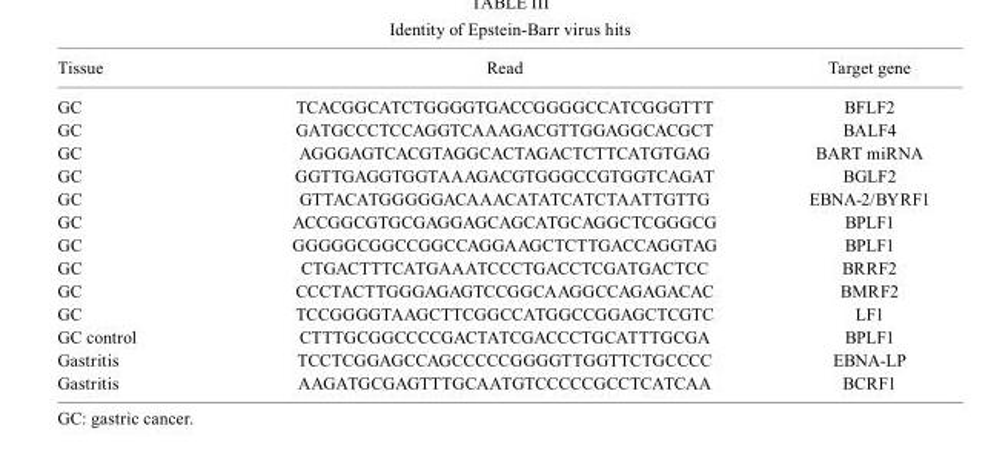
<table><thead><tr><td>Tissue</td><td>Read</td><td>Target gene</td></tr></thead><tbody><tr><td>GC</td><td>TCACGGCATCTGGGGTGACCGGGGCCATCGGGTTT</td><td>BFLF2</td></tr><tr><td>GC</td><td>GATGCCCTCCAGGTCAAAGACGTTGGAGGCACGCT</td><td>BALF4</td></tr><tr><td>GC</td><td>AGGGAGTCACGTAGGCACTAGACTCTTCATGTGAG</td><td>BART miRNA</td></tr><tr><td>GC</td><td>GGTTGAGGTGGTAAAGACGTGGGCCGTGGTCAGAT</td><td>BGLF2</td></tr><tr><td>GC</td><td>GTTACATGGGGGACAAACATATCATCTAATTGTTG</td><td>EBNA-2/BYRF1</td></tr><tr><td>GC</td><td>ACCGGCGTGCGAGGAGCAGCATGCAGGCTCGGGCG</td><td>BPLF1</td></tr><tr><td>GC</td><td>GGGGGCGGCCGGCCAGGAAGCTCTTGACCAGGTAG</td><td>BPLF1</td></tr><tr><td>GC</td><td>CTGACTTTCATGAAATCCCTGACCTCGATGACTCC</td><td>BRRF2</td></tr><tr><td>GC</td><td>CCCTACTTGGGAGAGTCCGGCAAGGCCAGAGACAC</td><td>BMRF2</td></tr><tr><td>GC</td><td>TCCGGGGTAAGCTTCGGCCATGGCCGGAGCTCGTC</td><td>LF1</td></tr><tr><td>GC control</td><td>CTTTGCGGCCCCGACTATCGACCCTGCATTTGCGA</td><td>BPLF1</td></tr><tr><td>Gastritis</td><td>TCCTCGGAGCCAGCCCCCGGGGTTGGTTCTGCCCC</td><td>EBNA-LP</td></tr><tr><td>Gastritis</td><td>AAGATGCGAGTTTGCAATGTCCCCCGCCTCATCAA</td><td>BCRF1</td></tr></tbody></table>